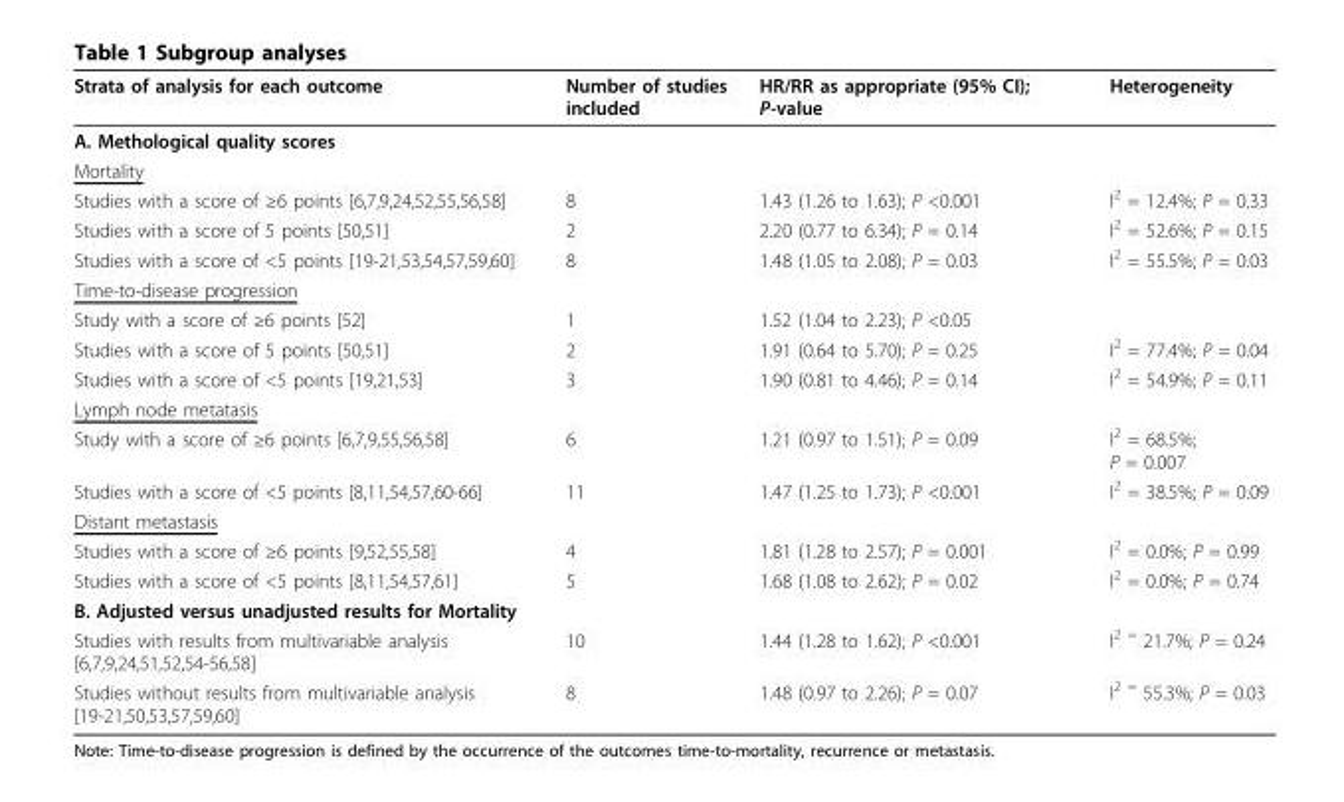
<table><thead><tr><td>Strata of analysis for each outcome</td><td>Number of studies included</td><td>HR/RR as appropriate (95% CI); P-value</td><td>Heterogeneity</td></tr></thead><tbody><tr><td colspan="4">A. Methological quality scores</td></tr><tr><td colspan="4">Mortality</td></tr><tr><td>Studies with a score of ≥6 points [6,7,9,24,52,55,56,58]</td><td>8</td><td>1.43 (1.26 to 1.63); P &lt;0.001</td><td>I<sup>2</sup> = 12.4%; P = 0.33</td></tr><tr><td>Studies with a score of 5 points [50,51]</td><td>2</td><td>2.20 (0.77 to 6.34); P = 0.14</td><td>I<sup>2</sup> = 52.6%; P = 0.15</td></tr><tr><td>Studies with a score of &lt;5 points [19-21,53,54,57,59,60]</td><td>8</td><td>1.48 (1.05 to 2.08); P = 0.03</td><td>I<sup>2</sup> = 55.5%; P = 0.03</td></tr><tr><td colspan="4">Time-to-disease progression</td></tr><tr><td>Study with a score of ≥6 points [52]</td><td>1</td><td>1.52 (1.04 to 2.23); P &lt;0.05</td><td></td></tr><tr><td>Studies with a score of 5 points [50,51]</td><td>2</td><td>1.91 (0.64 to 5.70); P = 0.25</td><td>I<sup>2</sup> = 77.4%; P = 0.04</td></tr><tr><td>Studies with a score of &lt;5 points [19,21,53]</td><td>3</td><td>1.90 (0.81 to 4.46); P = 0.14</td><td>I<sup>2</sup> = 54.9%; P = 0.11</td></tr><tr><td colspan="4">Lymph node metatasis</td></tr><tr><td>Study with a score of ≥6 points [6,7,9,55,56,58]</td><td>6</td><td>1.21 (0.97 to 1.51); P = 0.09</td><td>I<sup>2</sup> = 68.5%; P = 0.007</td></tr><tr><td>Studies with a score of &lt;5 points [8,11,54,57,60-66]</td><td>11</td><td>1.47 (1.25 to 1.73); P &lt;0.001</td><td>I<sup>2</sup> = 38.5%; P = 0.09</td></tr><tr><td colspan="4">Distant metastasis</td></tr><tr><td>Studies with a score of ≥6 points [9,52,55,58]</td><td>4</td><td>1.81 (1.28 to 2.57); P = 0.001</td><td>I<sup>2</sup> = 0.0%; P = 0.99</td></tr><tr><td>Studies with a score of &lt;5 points [8,11,54,57,61]</td><td>5</td><td>1.68 (1.08 to 2.62); P = 0.02</td><td>I<sup>2</sup> = 0.0%; P = 0.74</td></tr><tr><td colspan="4">B. Adjusted versus unadjusted results for Mortality</td></tr><tr><td>Studies with results from multivariable analysis [6,7,9,24,51,52,54-56,58]</td><td>10</td><td>1.44 (1.28 to 1.62); P &lt;0.001</td><td>I<sup>2 =</sup> 21.7%; P = 0.24</td></tr><tr><td>Studies without results from multivariable analysis [19-21,50,53,57,59,60]</td><td>8</td><td>1.48 (0.97 to 2.26); P = 0.07</td><td>I<sup>2 =</sup> 55.3%; P = 0.03</td></tr></tbody></table>